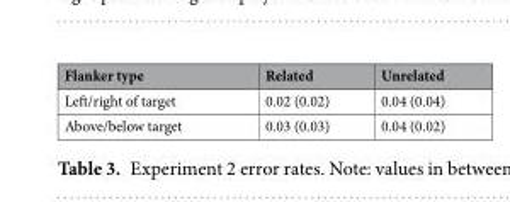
<table><thead><tr><td>Flanker type</td><td>Related</td><td>Unrelated</td></tr></thead><tbody><tr><td>Left/right of target</td><td>0.02 (0.02)</td><td>0.04 (0.04)</td></tr><tr><td>Above/below target</td><td>0.03 (0.03)</td><td>0.04 (0.02)</td></tr></tbody></table>